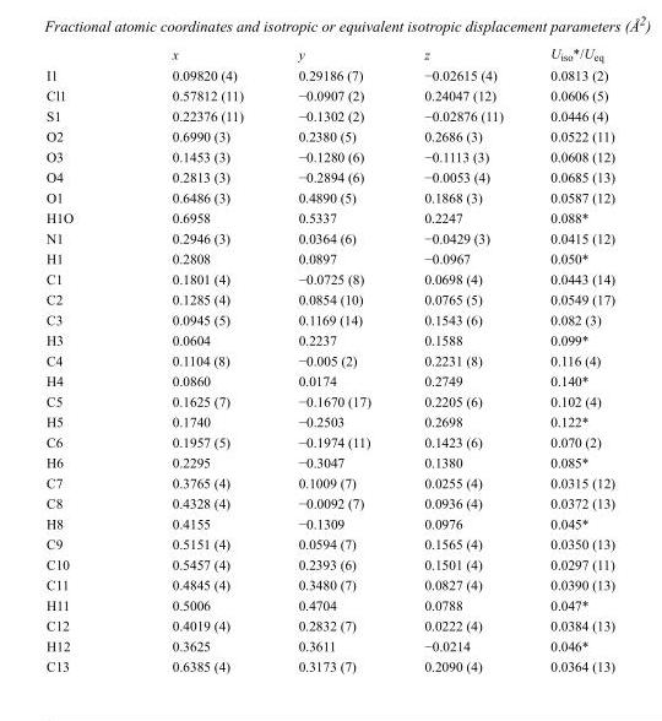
<table><thead><tr><td></td><td>x</td><td>y</td><td>z</td><td>U<sub>iso</sub>*/U<sub>eq</sub></td></tr></thead><tbody><tr><td>I1</td><td>0.09820 (4)</td><td>0.29186 (7)</td><td>−0.02615 (4)</td><td>0.0813 (2)</td></tr><tr><td>Cl1</td><td>0.57812 (11)</td><td>−0.0907 (2)</td><td>0.24047 (12)</td><td>0.0606 (5)</td></tr><tr><td>S1</td><td>0.22376 (11)</td><td>−0.1302 (2)</td><td>−0.02876 (11)</td><td>0.0446 (4)</td></tr><tr><td>O2</td><td>0.6990 (3)</td><td>0.2380 (5)</td><td>0.2686 (3)</td><td>0.0522 (11)</td></tr><tr><td>O3</td><td>0.1453 (3)</td><td>−0.1280 (6)</td><td>−0.1113 (3)</td><td>0.0608 (12)</td></tr><tr><td>O4</td><td>0.2813 (3)</td><td>−0.2894 (6)</td><td>−0.0053 (4)</td><td>0.0685 (13)</td></tr><tr><td>O1</td><td>0.6486 (3)</td><td>0.4890 (5)</td><td>0.1868 (3)</td><td>0.0587 (12)</td></tr><tr><td>H1O</td><td>0.6958</td><td>0.5337</td><td>0.2247</td><td>0.088*</td></tr><tr><td>N1</td><td>0.2946 (3)</td><td>0.0364 (6)</td><td>−0.0429 (3)</td><td>0.0415 (12)</td></tr><tr><td>H1</td><td>0.2808</td><td>0.0897</td><td>−0.0967</td><td>0.050*</td></tr><tr><td>C1</td><td>0.1801 (4)</td><td>−0.0725 (8)</td><td>0.0698 (4)</td><td>0.0443 (14)</td></tr><tr><td>C2</td><td>0.1285 (4)</td><td>0.0854 (10)</td><td>0.0765 (5)</td><td>0.0549 (17)</td></tr><tr><td>C3</td><td>0.0945 (5)</td><td>0.1169 (14)</td><td>0.1543 (6)</td><td>0.082 (3)</td></tr><tr><td>H3</td><td>0.0604</td><td>0.2237</td><td>0.1588</td><td>0.099*</td></tr><tr><td>C4</td><td>0.1104 (8)</td><td>−0.005 (2)</td><td>0.2231 (8)</td><td>0.116 (4)</td></tr><tr><td>H4</td><td>0.0860</td><td>0.0174</td><td>0.2749</td><td>0.140*</td></tr><tr><td>C5</td><td>0.1625 (7)</td><td>−0.1670 (17)</td><td>0.2205 (6)</td><td>0.102 (4)</td></tr><tr><td>H5</td><td>0.1740</td><td>−0.2503</td><td>0.2698</td><td>0.122*</td></tr><tr><td>C6</td><td>0.1957 (5)</td><td>−0.1974 (11)</td><td>0.1423 (6)</td><td>0.070 (2)</td></tr><tr><td>H6</td><td>0.2295</td><td>−0.3047</td><td>0.1380</td><td>0.085*</td></tr><tr><td>C7</td><td>0.3765 (4)</td><td>0.1009 (7)</td><td>0.0255 (4)</td><td>0.0315 (12)</td></tr><tr><td>C8</td><td>0.4328 (4)</td><td>−0.0092 (7)</td><td>0.0936 (4)</td><td>0.0372 (13)</td></tr><tr><td>H8</td><td>0.4155</td><td>−0.1309</td><td>0.0976</td><td>0.045*</td></tr><tr><td>C9</td><td>0.5151 (4)</td><td>0.0594 (7)</td><td>0.1565 (4)</td><td>0.0350 (13)</td></tr><tr><td>C10</td><td>0.5457 (4)</td><td>0.2393 (6)</td><td>0.1501 (4)</td><td>0.0297 (11)</td></tr><tr><td>C11</td><td>0.4845 (4)</td><td>0.3480 (7)</td><td>0.0827 (4)</td><td>0.0390 (13)</td></tr><tr><td>H11</td><td>0.5006</td><td>0.4704</td><td>0.0788</td><td>0.047*</td></tr><tr><td>C12</td><td>0.4019 (4)</td><td>0.2832 (7)</td><td>0.0222 (4)</td><td>0.0384 (13)</td></tr><tr><td>H12</td><td>0.3625</td><td>0.3611</td><td>−0.0214</td><td>0.046*</td></tr><tr><td>C13</td><td>0.6385 (4)</td><td>0.3173 (7)</td><td>0.2090 (4)</td><td>0.0364 (13)</td></tr></tbody></table>